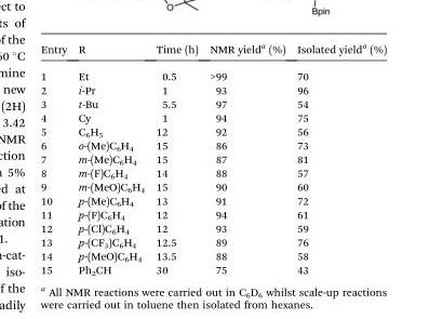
<table><thead><tr><td>Entry</td><td>R</td><td>Time (h)</td><td>NMR yield<sup>a</sup> (%)</td><td>Isolated yield<sup>a</sup> (%)</td></tr></thead><tbody><tr><td>1</td><td>Et</td><td>0.5</td><td>&gt;99</td><td>70</td></tr><tr><td>2</td><td>i-Pr</td><td>1</td><td>93</td><td>96</td></tr><tr><td>3</td><td>t-Bu</td><td>5.5</td><td>97</td><td>54</td></tr><tr><td>4</td><td>Cy</td><td>1</td><td>94</td><td>75</td></tr><tr><td>5</td><td>C<sub>6</sub>H<sub>5</sub></td><td>12</td><td>92</td><td>56</td></tr><tr><td>6</td><td>o-(Me)C<sub>6</sub>H<sub>4</sub></td><td>15</td><td>86</td><td>73</td></tr><tr><td>7</td><td>m-(Me)C<sub>6</sub>H<sub>4</sub></td><td>15</td><td>87</td><td>81</td></tr><tr><td>8</td><td>m-(F)C<sub>6</sub>H<sub>4</sub></td><td>14</td><td>88</td><td>57</td></tr><tr><td>9</td><td>m-(MeO)C<sub>6</sub>H<sub>4</sub></td><td>15</td><td>90</td><td>60</td></tr><tr><td>10</td><td>p-(Me)C<sub>6</sub>H<sub>4</sub></td><td>13</td><td>91</td><td>72</td></tr><tr><td>11</td><td>p-(F)C<sub>6</sub>H<sub>4</sub></td><td>12</td><td>94</td><td>61</td></tr><tr><td>12</td><td>p-(Cl)C<sub>6</sub>H<sub>4</sub></td><td>12</td><td>93</td><td>59</td></tr><tr><td>13</td><td>p-(CF<sub>3</sub>)C<sub>6</sub>H<sub>4</sub></td><td>12.5</td><td>89</td><td>76</td></tr><tr><td>14</td><td>p-(MeO)C<sub>6</sub>H<sub>4</sub></td><td>13.5</td><td>88</td><td>58</td></tr><tr><td>15</td><td>Ph<sub>2</sub>CH</td><td>30</td><td>75</td><td>43</td></tr></tbody></table>